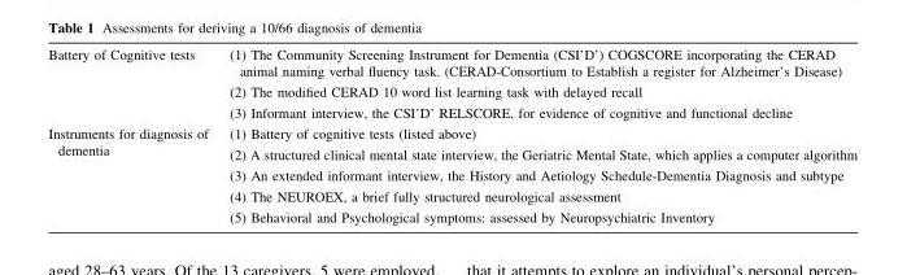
<table><tbody><tr><td>Battery of Cognitive tests</td><td>(1) The Community Screening Instrument for Dementia (CSI’D’) COGSCORE incorporating the CERAD animal naming verbal fluency task. (CERAD-Consortium to Establish a register for Alzheimer’s Disease) (2) The modified CERAD 10 word list learning task with delayed recall (3) Informant interview, the CSI’D’ RELSCORE, for evidence of cognitive and functional decline</td></tr><tr><td>Instruments for diagnosis of dementia</td><td>(1) Battery of cognitive tests (listed above) (2) A structured clinical mental state interview, the Geriatric Mental State, which applies a computer algorithm (3) An extended informant interview, the History and Aetiology Schedule-Dementia Diagnosis and subtype (4) The NEUROEX, a brief fully structured neurological assessment (5) Behavioral and Psychological symptoms: assessed by Neuropsychiatric Inventory</td></tr></tbody></table>